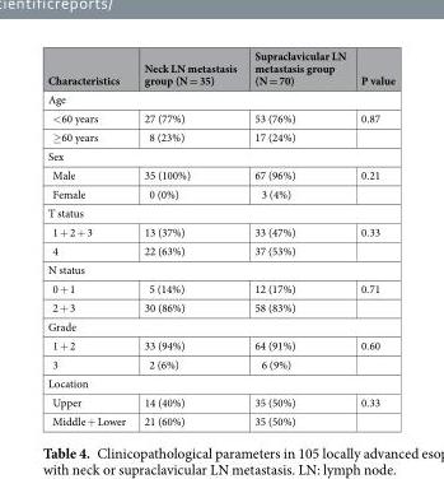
<table><thead><tr><td>Characteristics</td><td>Neck LN metastasis group (N = 35)</td><td>Supraclavicular LN metastasis group (N = 70)</td><td>P value</td></tr></thead><tbody><tr><td colspan="4">Age</td></tr><tr><td>&lt;60 years</td><td>27 (77%)</td><td>53 (76%)</td><td>0.87</td></tr><tr><td>≥60 years</td><td>8 (23%)</td><td>17 (24%)</td><td></td></tr><tr><td colspan="4">Sex</td></tr><tr><td>Male</td><td>35 (100%)</td><td>67 (96%)</td><td>0.21</td></tr><tr><td>Female</td><td>0 (0%)</td><td>3 (4%)</td><td></td></tr><tr><td colspan="4">T status</td></tr><tr><td>1 + 2 + 3</td><td>13 (37%)</td><td>33 (47%)</td><td>0.33</td></tr><tr><td>4</td><td>22 (63%)</td><td>37 (53%)</td><td></td></tr><tr><td colspan="4">N status</td></tr><tr><td>0 + 1</td><td>5 (14%)</td><td>12 (17%)</td><td>0.71</td></tr><tr><td>2 + 3</td><td>30 (86%)</td><td>58 (83%)</td><td></td></tr><tr><td colspan="4">Grade</td></tr><tr><td>1 + 2</td><td>33 (94%)</td><td>64 (91%)</td><td>0.60</td></tr><tr><td>3</td><td>2 (6%)</td><td>6 (9%)</td><td></td></tr><tr><td colspan="4">Location</td></tr><tr><td>Upper</td><td>14 (40%)</td><td>35 (50%)</td><td>0.33</td></tr><tr><td>Middle + Lower</td><td>21 (60%)</td><td>35 (50%)</td><td></td></tr></tbody></table>